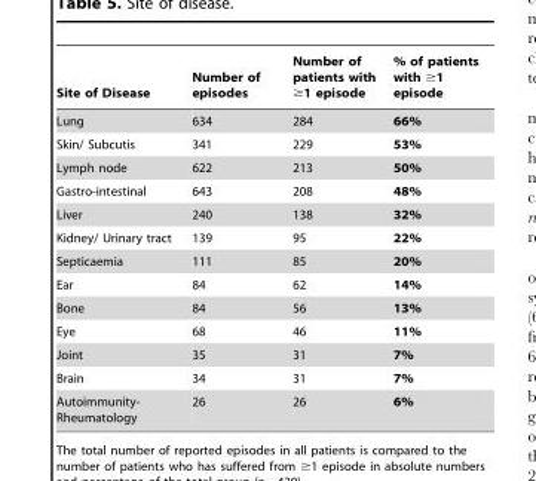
<table><thead><tr><td>Site of Disease</td><td>Number of episodes</td><td>Number of patients with ≥1 episode</td><td>% of patients with ≥1 episode</td></tr></thead><tbody><tr><td>Lung</td><td>634</td><td>284</td><td>66%</td></tr><tr><td>Skin/ Subcutis</td><td>341</td><td>229</td><td>53%</td></tr><tr><td>Lymph node</td><td>622</td><td>213</td><td>50%</td></tr><tr><td>Gastro-intestinal</td><td>643</td><td>208</td><td>48%</td></tr><tr><td>Liver</td><td>240</td><td>138</td><td>32%</td></tr><tr><td>Kidney/ Urinary tract</td><td>139</td><td>95</td><td>22%</td></tr><tr><td>Septicaemia</td><td>111</td><td>85</td><td>20%</td></tr><tr><td>Ear</td><td>84</td><td>62</td><td>14%</td></tr><tr><td>Bone</td><td>84</td><td>56</td><td>13%</td></tr><tr><td>Eye</td><td>68</td><td>46</td><td>11%</td></tr><tr><td>Joint</td><td>35</td><td>31</td><td>7%</td></tr><tr><td>Brain</td><td>34</td><td>31</td><td>7%</td></tr><tr><td>Autoimmunity- Rheumatology</td><td>26</td><td>26</td><td>6%</td></tr></tbody></table>